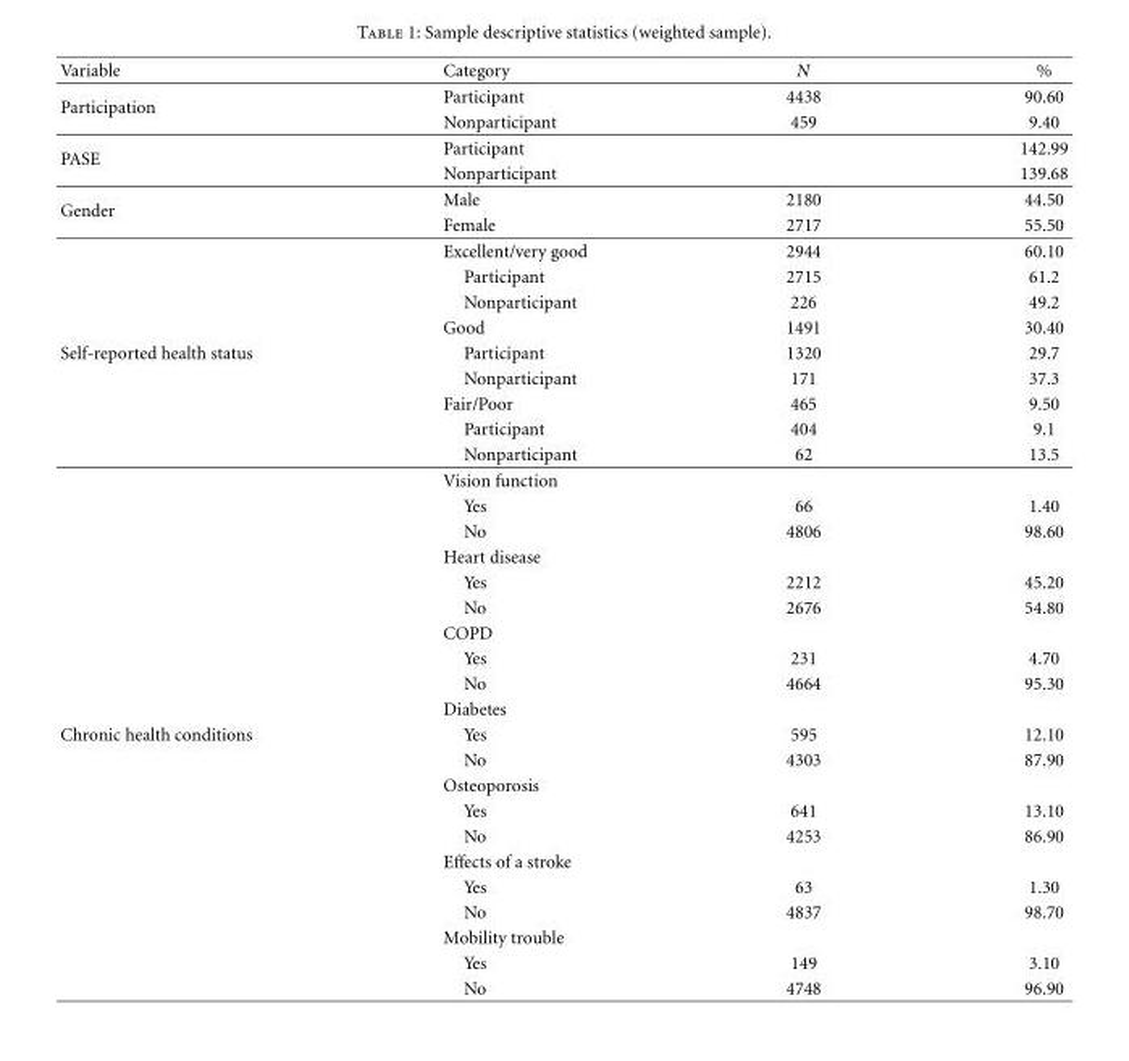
<table><thead><tr><td>Variable</td><td>Category</td><td>N</td><td>%</td></tr></thead><tbody><tr><td rowspan="2">Participation</td><td>Participant</td><td>4438</td><td>90.60</td></tr><tr><td>Nonparticipant</td><td>459</td><td>9.40</td></tr><tr><td rowspan="2">PASE</td><td>Participant</td><td></td><td>142.99</td></tr><tr><td>Nonparticipant</td><td></td><td>139.68</td></tr><tr><td rowspan="6">Gender</td><td>Male</td><td>2180</td><td>44.50</td></tr><tr><td>Female</td><td>2717</td><td>55.50</td></tr><tr><td>Excellent/very good</td><td>2944</td><td>60.10</td></tr><tr><td>Participant</td><td>2715</td><td>61.2</td></tr><tr><td>Nonparticipant</td><td>226</td><td>49.2</td></tr><tr><td>Good</td><td>1491</td><td>30.40</td></tr><tr><td rowspan="15">Self-reported health status</td><td>Participant</td><td>1320</td><td>29.7</td></tr><tr><td>Nonparticipant</td><td>171</td><td>37.3</td></tr><tr><td>Fair/Poor</td><td>465</td><td>9.50</td></tr><tr><td>Participant</td><td>404</td><td>9.1</td></tr><tr><td>Nonparticipant</td><td>62</td><td>13.5</td></tr><tr><td>Vision function</td><td></td><td></td></tr><tr><td>Yes</td><td>66</td><td>1.40</td></tr><tr><td>No</td><td>4806</td><td>98.60</td></tr><tr><td>Heart disease</td><td></td><td></td></tr><tr><td>Yes</td><td>2212</td><td>45.20</td></tr><tr><td>No</td><td>2676</td><td>54.80</td></tr><tr><td>COPD</td><td></td><td></td></tr><tr><td>Yes</td><td>231</td><td>4.70</td></tr><tr><td>No</td><td>4664</td><td>95.30</td></tr><tr><td>Diabetes</td><td></td><td></td></tr><tr><td rowspan="11">Chronic health conditions</td><td>Yes</td><td>595</td><td>12.10</td></tr><tr><td>No</td><td>4303</td><td>87.90</td></tr><tr><td>Osteoporosis</td><td></td><td></td></tr><tr><td>Yes</td><td>641</td><td>13.10</td></tr><tr><td>No</td><td>4253</td><td>86.90</td></tr><tr><td>Effects of a stroke</td><td></td><td></td></tr><tr><td>Yes</td><td>63</td><td>1.30</td></tr><tr><td>No</td><td>4837</td><td>98.70</td></tr><tr><td>Mobility trouble</td><td></td><td></td></tr><tr><td>Yes</td><td>149</td><td>3.10</td></tr><tr><td>No</td><td>4748</td><td>96.90</td></tr></tbody></table>